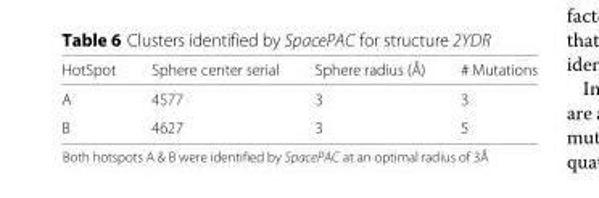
<table><thead><tr><td>HotSpot</td><td>Sphere center serial</td><td>Sphere radius (Å)</td><td># Mutations</td></tr></thead><tbody><tr><td>A</td><td>4577</td><td>3</td><td>3</td></tr><tr><td>B</td><td>4627</td><td>3</td><td>5</td></tr></tbody></table>